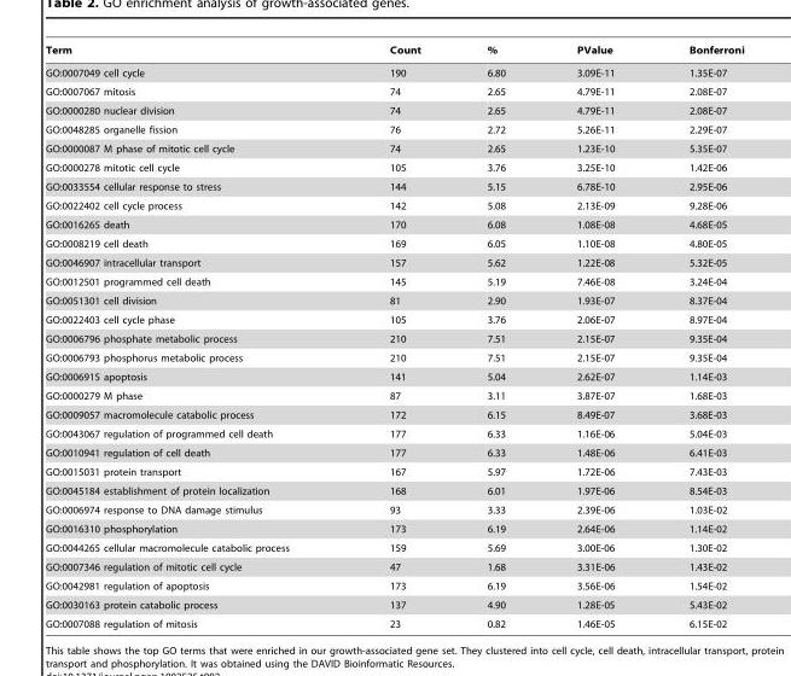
<table><thead><tr><td>Term</td><td>Count</td><td>%</td><td>PValue</td><td>Bonferroni</td></tr></thead><tbody><tr><td>GO:0007049 cell cycle</td><td>190</td><td>6.80</td><td>3.09E-11</td><td>1.35E-07</td></tr><tr><td>GO:0007067 mitosis</td><td>74</td><td>2.65</td><td>4.79E-11</td><td>2.08E-07</td></tr><tr><td>GO:0000280 nuclear division</td><td>74</td><td>2.65</td><td>4.79E-11</td><td>2.08E-07</td></tr><tr><td>GO:0048285 organelle fission</td><td>76</td><td>2.72</td><td>5.26E-11</td><td>2.29E-07</td></tr><tr><td>GO:0000087 M phase of mitotic cell cycle</td><td>74</td><td>2.65</td><td>1.23E-10</td><td>5.35E-07</td></tr><tr><td>GO:0000278 mitotic cell cycle</td><td>105</td><td>3.76</td><td>3.25E-10</td><td>1.42E-06</td></tr><tr><td>GO:0033554 cellular response to stress</td><td>144</td><td>5.15</td><td>6.78E-10</td><td>2.95E-06</td></tr><tr><td>GO:0022402 cell cycle process</td><td>142</td><td>5.08</td><td>2.13E-09</td><td>9.28E-06</td></tr><tr><td>GO:0016265 death</td><td>170</td><td>6.08</td><td>1.08E-08</td><td>4.68E-05</td></tr><tr><td>GO:0008219 cell death</td><td>169</td><td>6.05</td><td>1.10E-08</td><td>4.80E-05</td></tr><tr><td>GO:0046907 intracellular transport</td><td>157</td><td>5.62</td><td>1.22E-08</td><td>5.32E-05</td></tr><tr><td>GO:0012501 programmed cell death</td><td>145</td><td>5.19</td><td>7.46E-08</td><td>3.24E-04</td></tr><tr><td>GO:0051301 cell division</td><td>81</td><td>2.90</td><td>1.93E-07</td><td>8.37E-04</td></tr><tr><td>GO:0022403 cell cycle phase</td><td>105</td><td>3.76</td><td>2.06E-07</td><td>8.97E-04</td></tr><tr><td>GO:0006796 phosphate metabolic process</td><td>210</td><td>7.51</td><td>2.15E-07</td><td>9.35E-04</td></tr><tr><td>GO:0006793 phosphorus metabolic process</td><td>210</td><td>7.51</td><td>2.15E-07</td><td>9.35E-04</td></tr><tr><td>GO:0006915 apoptosis</td><td>141</td><td>5.04</td><td>2.62E-07</td><td>1.14E-03</td></tr><tr><td>GO:0000279 M phase</td><td>87</td><td>3.11</td><td>3.87E-07</td><td>1.68E-03</td></tr><tr><td>GO:0009057 macromolecule catabolic process</td><td>172</td><td>6.15</td><td>8.49E-07</td><td>3.68E-03</td></tr><tr><td>GO:0043067 regulation of programmed cell death</td><td>177</td><td>6.33</td><td>1.16E-06</td><td>5.04E-03</td></tr><tr><td>GO:0010941 regulation of cell death</td><td>177</td><td>6.33</td><td>1.48E-06</td><td>6.41E-03</td></tr><tr><td>GO:0015031 protein transport</td><td>167</td><td>5.97</td><td>1.72E-06</td><td>7.43E-03</td></tr><tr><td>GO:0045184 establishment of protein localization</td><td>168</td><td>6.01</td><td>1.97E-06</td><td>8.54E-03</td></tr><tr><td>GO:0006974 response to DNA damage stimulus</td><td>93</td><td>3.33</td><td>2.39E-06</td><td>1.03E-02</td></tr><tr><td>GO:0016310 phosphorylation</td><td>173</td><td>6.19</td><td>2.64E-06</td><td>1.14E-02</td></tr><tr><td>GO:0044265 cellular macromolecule catabolic process</td><td>159</td><td>5.69</td><td>3.00E-06</td><td>1.30E-02</td></tr><tr><td>GO:0007346 regulation of mitotic cell cycle</td><td>47</td><td>1.68</td><td>3.31E-06</td><td>1.43E-02</td></tr><tr><td>GO:0042981 regulation of apoptosis</td><td>173</td><td>6.19</td><td>3.56E-06</td><td>1.54E-02</td></tr><tr><td>GO:0030163 protein catabolic process</td><td>137</td><td>4.90</td><td>1.28E-05</td><td>5.43E-02</td></tr><tr><td>GO:0007088 regulation of mitosis</td><td>23</td><td>0.82</td><td>1.46E-05</td><td>6.15E-02</td></tr></tbody></table>